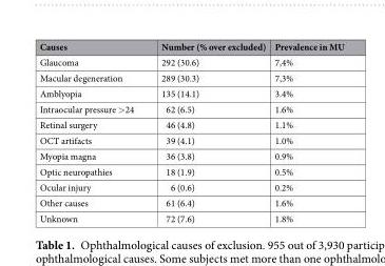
<table><thead><tr><td>Causes</td><td>Number (% over excluded)</td><td>Prevalence in MU</td></tr></thead><tbody><tr><td>Glaucoma</td><td>292 (30.6)</td><td>7,4%</td></tr><tr><td>Macular degeneration</td><td>289 (30.3)</td><td>7,3%</td></tr><tr><td>Amblyopia</td><td>135 (14.1)</td><td>3.4%</td></tr><tr><td>Intraocular pressure &gt;24</td><td>62 (6.5)</td><td>1.6%</td></tr><tr><td>Retinal surgery</td><td>46 (4.8)</td><td>1.1%</td></tr><tr><td>OCT artifacts</td><td>39 (4.1)</td><td>1.0%</td></tr><tr><td>Myopia magna</td><td>36 (3.8)</td><td>0.9%</td></tr><tr><td>Optic neuropathies</td><td>18 (1.9)</td><td>0.5%</td></tr><tr><td>Ocular injury</td><td>6 (0.6)</td><td>0.2%</td></tr><tr><td>Other causes</td><td>61 (6.4)</td><td>1.6%</td></tr><tr><td>Unknown</td><td>72 (7.6)</td><td>1.8%</td></tr></tbody></table>